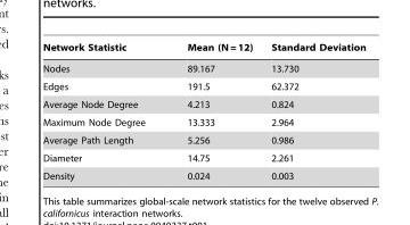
<table><thead><tr><td>Network Statistic</td><td>Mean (N = 12)</td><td>Standard Deviation</td></tr></thead><tbody><tr><td>Nodes</td><td>89.167</td><td>13.730</td></tr><tr><td>Edges</td><td>191.5</td><td>62.372</td></tr><tr><td>Average Node Degree</td><td>4.213</td><td>0.824</td></tr><tr><td>Maximum Node Degree</td><td>13.333</td><td>2.964</td></tr><tr><td>Average Path Length</td><td>5.256</td><td>0.986</td></tr><tr><td>Diameter</td><td>14.75</td><td>2.261</td></tr><tr><td>Density</td><td>0.024</td><td>0.003</td></tr></tbody></table>